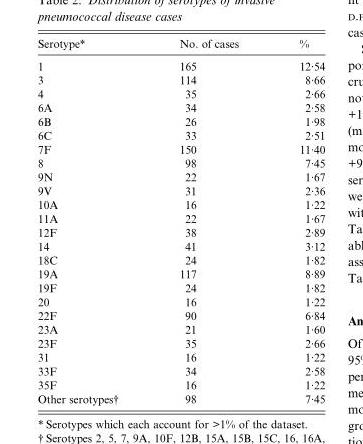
<table><thead><tr><td>Serotype*</td><td>No. of cases</td><td>%</td></tr></thead><tbody><tr><td>1</td><td>165</td><td>12·54</td></tr><tr><td>3</td><td>114</td><td>8·66</td></tr><tr><td>4</td><td>35</td><td>2·66</td></tr><tr><td>6A</td><td>34</td><td>2·58</td></tr><tr><td>6B</td><td>26</td><td>1·98</td></tr><tr><td>6C</td><td>33</td><td>2·51</td></tr><tr><td>7F</td><td>150</td><td>11·40</td></tr><tr><td>8</td><td>98</td><td>7·45</td></tr><tr><td>9N</td><td>22</td><td>1·67</td></tr><tr><td>9V</td><td>31</td><td>2·36</td></tr><tr><td>10A</td><td>16</td><td>1·22</td></tr><tr><td>11A</td><td>22</td><td>1·67</td></tr><tr><td>12F</td><td>38</td><td>2·89</td></tr><tr><td>14</td><td>41</td><td>3·12</td></tr><tr><td>18C</td><td>24</td><td>1·82</td></tr><tr><td>19A</td><td>117</td><td>8·89</td></tr><tr><td>19F</td><td>24</td><td>1·82</td></tr><tr><td>20</td><td>16</td><td>1·22</td></tr><tr><td>22F</td><td>90</td><td>6·84</td></tr><tr><td>23A</td><td>21</td><td>1·60</td></tr><tr><td>23F</td><td>35</td><td>2·66</td></tr><tr><td>31</td><td>16</td><td>1·22</td></tr><tr><td>33F</td><td>34</td><td>2·58</td></tr><tr><td>35F</td><td>16</td><td>1·22</td></tr><tr><td>Other serotypes†</td><td>98</td><td>7·45</td></tr></tbody></table>